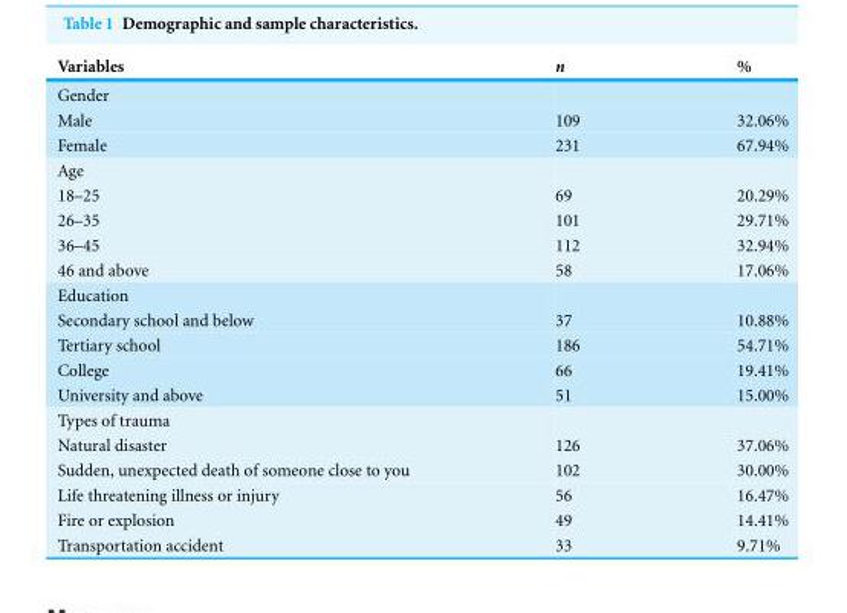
<table><thead><tr><td>Variables</td><td>n</td><td>%</td></tr></thead><tbody><tr><td colspan="3">Gender</td></tr><tr><td>Male</td><td>109</td><td>32.06%</td></tr><tr><td>Female</td><td>231</td><td>67.94%</td></tr><tr><td colspan="3">Age</td></tr><tr><td>18–25</td><td>69</td><td>20.29%</td></tr><tr><td>26–35</td><td>101</td><td>29.71%</td></tr><tr><td>36–45</td><td>112</td><td>32.94%</td></tr><tr><td>46 and above</td><td>58</td><td>17.06%</td></tr><tr><td colspan="3">Education</td></tr><tr><td>Secondary school and below</td><td>37</td><td>10.88%</td></tr><tr><td>Tertiary school</td><td>186</td><td>54.71%</td></tr><tr><td>College</td><td>66</td><td>19.41%</td></tr><tr><td>University and above</td><td>51</td><td>15.00%</td></tr><tr><td colspan="3">Types of trauma</td></tr><tr><td>Natural disaster</td><td>126</td><td>37.06%</td></tr><tr><td>Sudden, unexpected death of someone close to you</td><td>102</td><td>30.00%</td></tr><tr><td>Life threatening illness or injury</td><td>56</td><td>16.47%</td></tr><tr><td>Fire or explosion</td><td>49</td><td>14.41%</td></tr><tr><td>Transportation accident</td><td>33</td><td>9.71%</td></tr></tbody></table>